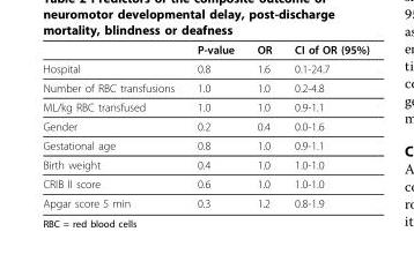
<table><thead><tr><td></td><td>P-value</td><td>OR</td><td>CI of OR (95%)</td></tr></thead><tbody><tr><td>Hospital</td><td>0.8</td><td>1.6</td><td>0.1-24.7</td></tr><tr><td>Number of RBC transfusions</td><td>1.0</td><td>1.0</td><td>0.2-4.8</td></tr><tr><td>ML/kg RBC transfused</td><td>1.0</td><td>1.0</td><td>0.9-1.1</td></tr><tr><td>Gender</td><td>0.2</td><td>0.4</td><td>0.0-1.6</td></tr><tr><td>Gestational age</td><td>0.8</td><td>1.0</td><td>0.9-1.1</td></tr><tr><td>Birth weight</td><td>0.4</td><td>1.0</td><td>1.0-1.0</td></tr><tr><td>CRIB II score</td><td>0.6</td><td>1.0</td><td>1.0-1.0</td></tr><tr><td>Apgar score 5 min</td><td>0.3</td><td>1.2</td><td>0.8-1.9</td></tr></tbody></table>